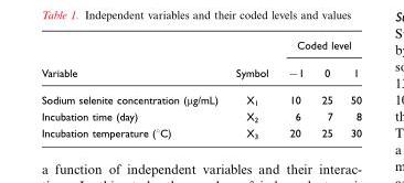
<table><thead><tr><td rowspan="2">Variable</td><td rowspan="2">Symbol</td><td colspan="3">Coded level</td></tr><tr><td>−1</td><td>0</td><td>1</td></tr></thead><tbody><tr><td>Sodium selenite concentration (µg/mL)</td><td>X<sub>1</sub></td><td>10</td><td>25</td><td>50</td></tr><tr><td>Incubation time (day)</td><td>X<sub>2</sub></td><td>6</td><td>7</td><td>8</td></tr><tr><td>Incubation temperature (°C)</td><td>X<sub>3</sub></td><td>20</td><td>25</td><td>30</td></tr></tbody></table>